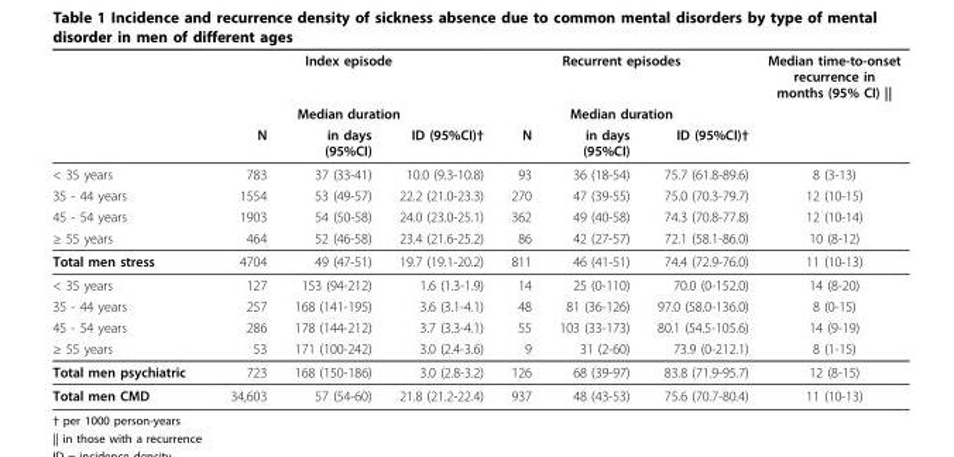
<table><thead><tr><td rowspan="3"></td><td rowspan="2" colspan="3">Index episode Median duration</td><td rowspan="2" colspan="3">Recurrent episodes Median duration</td><td rowspan="3">Median time-to-onset recurrence in months (95% CI) ||</td></tr><tr></tr><tr><td>N</td><td>in days (95%CI)</td><td>ID (95%CI)†</td><td>N</td><td>in days (95%CI)</td><td>ID (95%CI)†</td></tr></thead><tbody><tr><td>&lt; 35 years</td><td>783</td><td>37 (33-41)</td><td>10.0 (9.3-10.8)</td><td>93</td><td>36 (18-54)</td><td>75.7 (61.8-89.6)</td><td>8 (3-13)</td></tr><tr><td>35 - 44 years</td><td>1554</td><td>53 (49-57)</td><td>22.2 (21.0-23.3)</td><td>270</td><td>47 (39-55)</td><td>75.0 (70.3-79.7)</td><td>12 (10-15)</td></tr><tr><td>45 - 54 years</td><td>1903</td><td>54 (50-58)</td><td>24.0 (23.0-25.1)</td><td>362</td><td>49 (40-58)</td><td>74.3 (70.8-77.8)</td><td>12 (10-14)</td></tr><tr><td>≥ 55 years</td><td>464</td><td>52 (46-58)</td><td>23.4 (21.6-25.2)</td><td>86</td><td>42 (27-57)</td><td>72.1 (58.1-86.0)</td><td>10 (8-12)</td></tr><tr><td>Total men stress</td><td>4704</td><td>49 (47-51)</td><td>19.7 (19.1-20.2)</td><td>811</td><td>46 (41-51)</td><td>74.4 (72.9-76.0)</td><td>11 (10-13)</td></tr><tr><td>&lt; 35 years</td><td>127</td><td>153 (94-212)</td><td>1.6 (1.3-1.9)</td><td>14</td><td>25 (0-110)</td><td>70.0 (0-152.0)</td><td>14 (8-20)</td></tr><tr><td>35 - 44 years</td><td>257</td><td>168 (141-195)</td><td>3.6 (3.1-4.1)</td><td>48</td><td>81 (36-126)</td><td>97.0 (58.0-136.0)</td><td>8 (0-15)</td></tr><tr><td>45 - 54 years</td><td>286</td><td>178 (144-212)</td><td>3.7 (3.3-4.1)</td><td>55</td><td>103 (33-173)</td><td>80.1 (54.5-105.6)</td><td>14 (9-19)</td></tr><tr><td>≥ 55 years</td><td>53</td><td>171 (100-242)</td><td>3.0 (2.4-3.6)</td><td>9</td><td>31 (2-60)</td><td>73.9 (0-212.1)</td><td>8 (1-15)</td></tr><tr><td>Total men psychiatric</td><td>723</td><td>168 (150-186)</td><td>3.0 (2.8-3.2)</td><td>126</td><td>68 (39-97)</td><td>83.8 (71.9-95.7)</td><td>12 (8-15)</td></tr><tr><td>Total men CMD</td><td>34,603</td><td>57 (54-60)</td><td>21.8 (21.2-22.4)</td><td>937</td><td>48 (43-53)</td><td>75.6 (70.7-80.4)</td><td>11 (10-13)</td></tr></tbody></table>